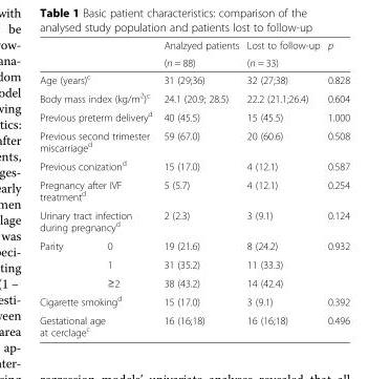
<table><thead><tr><td rowspan="2"></td><td rowspan="2"></td><td rowspan="2">Analzyed patients (n = 88)</td><td rowspan="2">Lost to follow-up (n = 33)</td><td rowspan="2">p</td></tr><tr></tr></thead><tbody><tr><td colspan="2">Age (years)<sup>c</sup></td><td>31 (29;36)</td><td>32 (27;38)</td><td>0.828</td></tr><tr><td colspan="2">Body mass index (kg/m<sup>2</sup>)<sup>c</sup></td><td>24.1 (20.9; 28.5)</td><td>22.2 (21.1;26.4)</td><td>0.604</td></tr><tr><td colspan="2">Previous preterm delivery<sup>d</sup></td><td>40 (45.5)</td><td>15 (45.5)</td><td>1.000</td></tr><tr><td colspan="2">Previous second trimester miscarriage<sup>d</sup></td><td>59 (67.0)</td><td>20 (60.6)</td><td>0.508</td></tr><tr><td colspan="2">Previous conization<sup>d</sup></td><td>15 (17.0)</td><td>4 (12.1)</td><td>0.587</td></tr><tr><td colspan="2">Pregnancy after IVF treatment<sup>d</sup></td><td>5 (5.7)</td><td>4 (12.1)</td><td>0.254</td></tr><tr><td colspan="2">Urinary tract infection during pregnancy<sup>d</sup></td><td>2 (2.3)</td><td>3 (9.1)</td><td>0.124</td></tr><tr><td rowspan="3">Parity</td><td>0</td><td>19 (21.6)</td><td>8 (24.2)</td><td rowspan="3">0.932</td></tr><tr><td>1</td><td>31 (35.2)</td><td>11 (33.3)</td></tr><tr><td>≥2</td><td>38 (43.2)</td><td>14 (42.4)</td></tr><tr><td colspan="2">Cigarette smoking<sup>d</sup></td><td>15 (17.0)</td><td>3 (9.1)</td><td>0.392</td></tr><tr><td colspan="2">Gestational age at cerclage<sup>c</sup></td><td>16 (16;18)</td><td>16 (16;18)</td><td>0.496</td></tr></tbody></table>